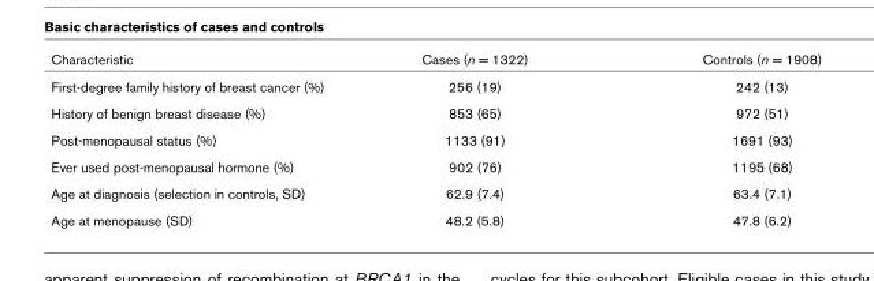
<table><thead><tr><td>Characteristic</td><td>Cases (n = 1322)</td><td>Controls (n = 1908)</td></tr></thead><tbody><tr><td>First-degree family history of breast cancer (%)</td><td>256 (19)</td><td>242 (13)</td></tr><tr><td>History of benign breast disease (%)</td><td>853 (65)</td><td>972 (51)</td></tr><tr><td>Post-menopausal status (%)</td><td>1133 (91)</td><td>1691 (93)</td></tr><tr><td>Ever used post-menopausal hormone (%)</td><td>902 (76)</td><td>1195 (68)</td></tr><tr><td>Age at diagnosis (selection in controls, SD)</td><td>62.9 (7.4)</td><td>63.4 (7.1)</td></tr><tr><td>Age at menopause (SD)</td><td>48.2 (5.8)</td><td>47.8 (6.2)</td></tr></tbody></table>